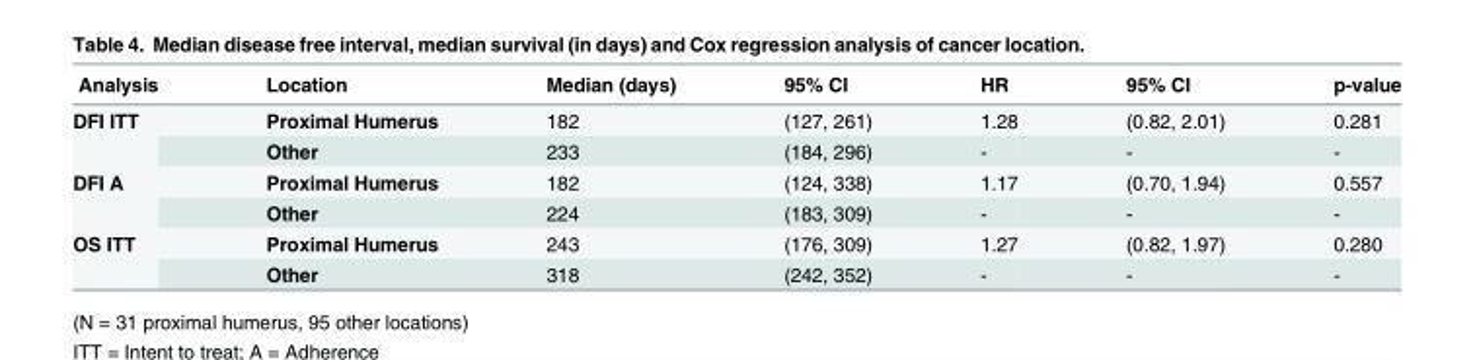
<table><thead><tr><td>Analysis</td><td>Location</td><td>Median (days)</td><td>95% CI</td><td>HR</td><td>95% CI</td><td>p-value</td></tr></thead><tbody><tr><td rowspan="2">DFI ITT</td><td>Proximal Humerus</td><td>182</td><td>(127, 261)</td><td>1.28</td><td>(0.82, 2.01)</td><td>0.281</td></tr><tr><td>Other</td><td>233</td><td>(184, 296)</td><td>-</td><td>-</td><td>-</td></tr><tr><td rowspan="2">DFI A</td><td>Proximal Humerus</td><td>182</td><td>(124, 338)</td><td>1.17</td><td>(0.70, 1.94)</td><td>0.557</td></tr><tr><td>Other</td><td>224</td><td>(183, 309)</td><td>-</td><td>-</td><td>-</td></tr><tr><td rowspan="2">OS ITT</td><td>Proximal Humerus</td><td>243</td><td>(176, 309)</td><td>1.27</td><td>(0.82, 1.97)</td><td>0.280</td></tr><tr><td>Other</td><td>318</td><td>(242, 352)</td><td>-</td><td>-</td><td>-</td></tr></tbody></table>